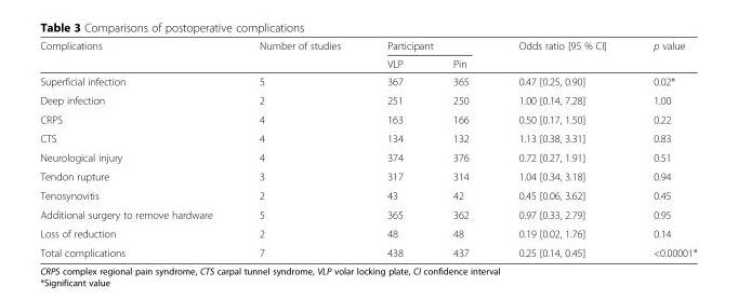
<table><thead><tr><td rowspan="2">Complications</td><td rowspan="2">Number of studies</td><td colspan="2">Participant</td><td rowspan="2">Odds ratio [95 % CI]</td><td rowspan="2">p value</td></tr><tr><td>VLP</td><td>Pin</td></tr></thead><tbody><tr><td>Superficial infection</td><td>5</td><td>367</td><td>365</td><td>0.47 [0.25, 0.90]</td><td>0.02*</td></tr><tr><td>Deep infection</td><td>2</td><td>251</td><td>250</td><td>1.00 [0.14, 7.28]</td><td>1.00</td></tr><tr><td>CRPS</td><td>4</td><td>163</td><td>166</td><td>0.50 [0.17, 1.50]</td><td>0.22</td></tr><tr><td>CTS</td><td>4</td><td>134</td><td>132</td><td>1.13 [0.38, 3.31]</td><td>0.83</td></tr><tr><td>Neurological injury</td><td>4</td><td>374</td><td>376</td><td>0.72 [0.27, 1.91]</td><td>0.51</td></tr><tr><td>Tendon rupture</td><td>3</td><td>317</td><td>314</td><td>1.04 [0.34, 3.18]</td><td>0.94</td></tr><tr><td>Tenosynovitis</td><td>2</td><td>43</td><td>42</td><td>0.45 [0.06, 3.62]</td><td>0.45</td></tr><tr><td>Additional surgery to remove hardware</td><td>5</td><td>365</td><td>362</td><td>0.97 [0.33, 2.79]</td><td>0.95</td></tr><tr><td>Loss of reduction</td><td>2</td><td>48</td><td>48</td><td>0.19 [0.02, 1.76]</td><td>0.14</td></tr><tr><td>Total complications</td><td>7</td><td>438</td><td>437</td><td>0.25 [0.14, 0.45]</td><td>&lt;0.00001*</td></tr></tbody></table>